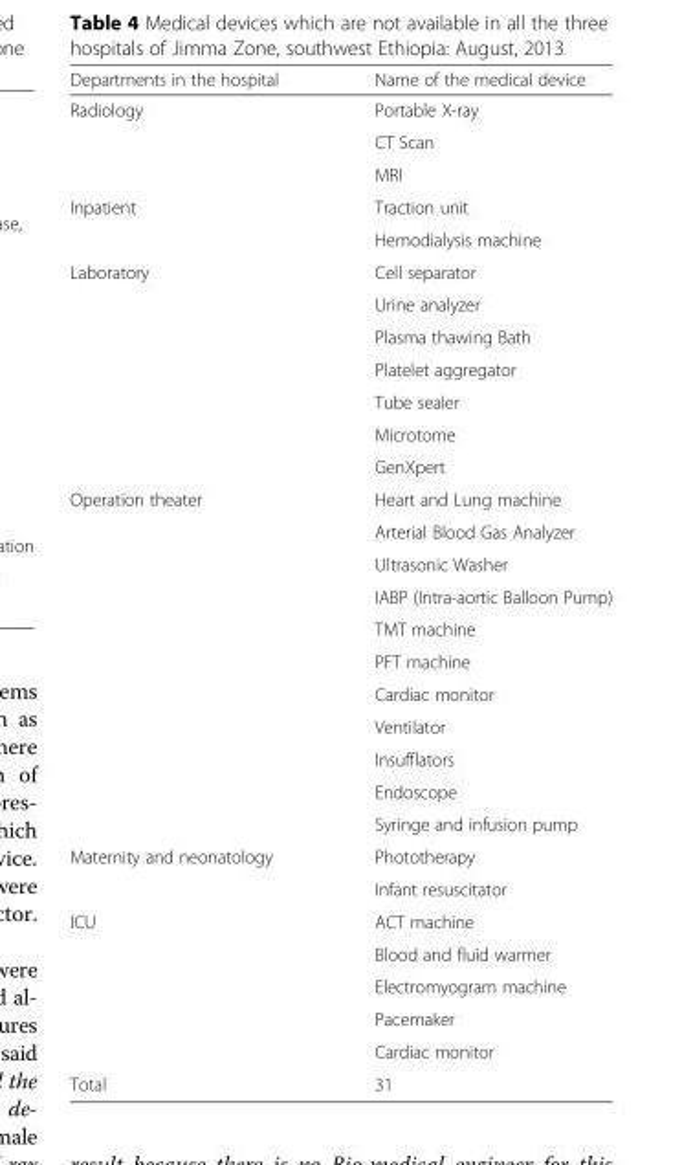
<table><thead><tr><td>Departments in the hospital</td><td>Name of the medical device</td></tr></thead><tbody><tr><td rowspan="3">Radiology</td><td>Portable X-ray</td></tr><tr><td>CT Scan</td></tr><tr><td>MRI</td></tr><tr><td rowspan="2">Inpatient</td><td>Traction unit</td></tr><tr><td>Hemodialysis machine</td></tr><tr><td rowspan="7">Laboratory</td><td>Cell separator</td></tr><tr><td>Urine analyzer</td></tr><tr><td>Plasma thawing Bath</td></tr><tr><td>Platelet aggregator</td></tr><tr><td>Tube sealer</td></tr><tr><td>Microtome</td></tr><tr><td>GenXpert</td></tr><tr><td rowspan="11">Operation theater</td><td>Heart and Lung machine</td></tr><tr><td>Arterial Blood Gas Analyzer</td></tr><tr><td>Ultrasonic Washer</td></tr><tr><td>IABP (Intra-aortic Balloon Pump)</td></tr><tr><td>TMT machine</td></tr><tr><td>PFT machine</td></tr><tr><td>Cardiac monitor</td></tr><tr><td>Ventilator</td></tr><tr><td>Insufflators</td></tr><tr><td>Endoscope</td></tr><tr><td>Syringe and infusion pump</td></tr><tr><td rowspan="2">Maternity and neonatology</td><td>Phototherapy</td></tr><tr><td>Infant resuscitator</td></tr><tr><td rowspan="5">ICU</td><td>ACT machine</td></tr><tr><td>Blood and fluid warmer</td></tr><tr><td>Electromyogram machine</td></tr><tr><td>Pacemaker</td></tr><tr><td>Cardiac monitor</td></tr><tr><td>Total</td><td>31</td></tr></tbody></table>